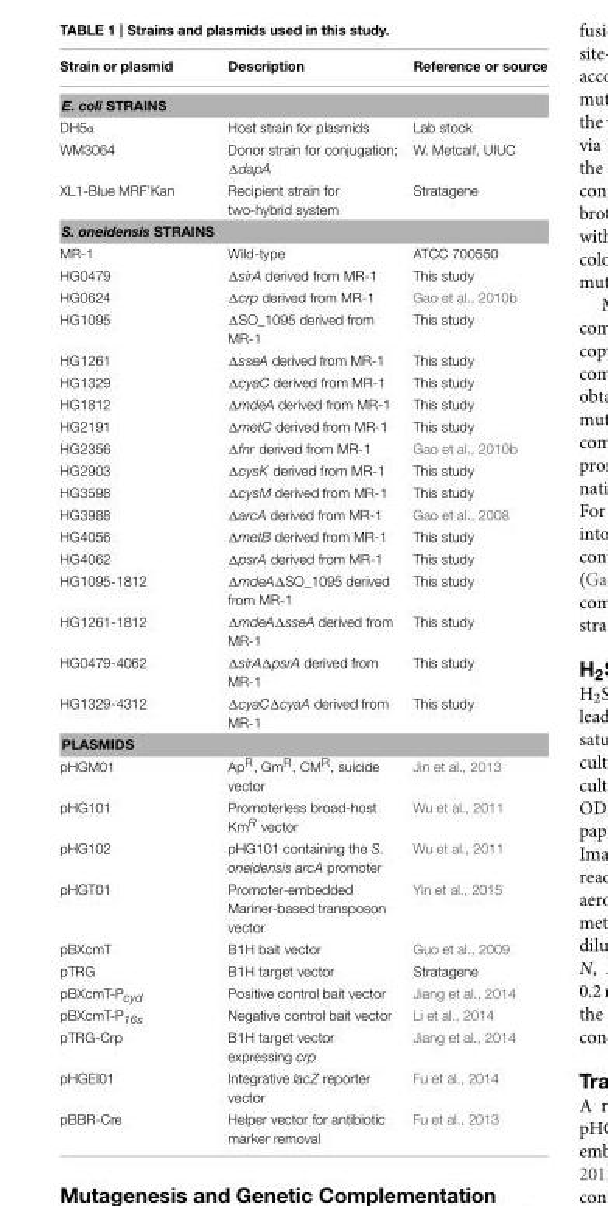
<table><thead><tr><td>Strain or plasmid</td><td>Description</td><td>Reference or source</td></tr></thead><tbody><tr><td colspan="3">E. coli STRAINS</td></tr><tr><td>DH5α</td><td>Host strain for plasmids</td><td>Lab stock</td></tr><tr><td>WM3064</td><td>Donor strain for conjugation; ΔdapA</td><td>W. Metcalf, UIUC</td></tr><tr><td>XL1-Blue MRF’Kan</td><td>Recipient strain for two-hybrid system</td><td>Stratagene</td></tr><tr><td colspan="3">S. oneidensis STRAINS</td></tr><tr><td>MR-1</td><td>Wild-type</td><td>ATCC 700550</td></tr><tr><td>HG0479</td><td>ΔsirA derived from MR-1</td><td>This study</td></tr><tr><td>HG0624</td><td>Δcrp derived from MR-1</td><td>Gao et al., 2010b</td></tr><tr><td>HG1095</td><td>ΔSO_1095 derived from MR-1</td><td>This study</td></tr><tr><td>HG1261</td><td>ΔsseA derived from MR-1</td><td>This study</td></tr><tr><td>HG1329</td><td>ΔcyaC derived from MR-1</td><td>This study</td></tr><tr><td>HG1812</td><td>ΔmdeA derived from MR-1</td><td>This study</td></tr><tr><td>HG2191</td><td>ΔmetC derived from MR-1</td><td>This study</td></tr><tr><td>HG2356</td><td>Δfnr derived from MR-1</td><td>Gao et al., 2010b</td></tr><tr><td>HG2903</td><td>ΔcysK derived from MR-1</td><td>This study</td></tr><tr><td>HG3598</td><td>ΔcysM derived from MR-1</td><td>This study</td></tr><tr><td>HG3988</td><td>ΔarcA derived from MR-1</td><td>Gao et al., 2008</td></tr><tr><td>HG4056</td><td>ΔmetB derived from MR-1</td><td>This study</td></tr><tr><td>HG4062</td><td>ΔpsrA derived from MR-1</td><td>This study</td></tr><tr><td>HG1095-1812</td><td>ΔmdeAΔSO_1095 derived from MR-1</td><td>This study</td></tr><tr><td>HG1261-1812</td><td>ΔmdeAΔsseA derived from MR-1</td><td>This study</td></tr><tr><td>HG0479-4062</td><td>ΔsirAΔpsrA derived from MR-1</td><td>This study</td></tr><tr><td>HG1329-4312</td><td>ΔcyaCΔcyaA derived from MR-1</td><td>This study</td></tr><tr><td colspan="3">PLASMIDS</td></tr><tr><td>pHGM01</td><td>Ap<sup>R</sup>, Gm<sup>R</sup>, CM<sup>R</sup>, suicide vector</td><td>Jin et al., 2013</td></tr><tr><td>pHG101</td><td>Promoterless broad-host Km<sup>R</sup> vector</td><td>Wu et al., 2011</td></tr><tr><td>pHG102</td><td>pHG101 containing the S. oneidensis arcA promoter</td><td>Wu et al., 2011</td></tr><tr><td>pHGT01</td><td>Promoter-embedded Mariner-based transposon vector</td><td>Yin et al., 2015</td></tr><tr><td>pBXcmT</td><td>B1H bait vector</td><td>Guo et al., 2009</td></tr><tr><td>pTRG</td><td>B1H target vector</td><td>Stratagene</td></tr><tr><td>pBXcmT-P<sub>cyd</sub></td><td>Positive control bait vector</td><td>Jiang et al., 2014</td></tr><tr><td>pBXcmT-P<sub>16s</sub></td><td>Negative control bait vector</td><td>Li et al., 2014</td></tr><tr><td>pTRG-Crp</td><td>B1H target vector expressing crp</td><td>Jiang et al., 2014</td></tr><tr><td>pHGEI01</td><td>Integrative lacZ reporter vector</td><td>Fu et al., 2014</td></tr><tr><td>pBBR-Cre</td><td>Helper vector for antibiotic marker removal</td><td>Fu et al., 2013</td></tr></tbody></table>